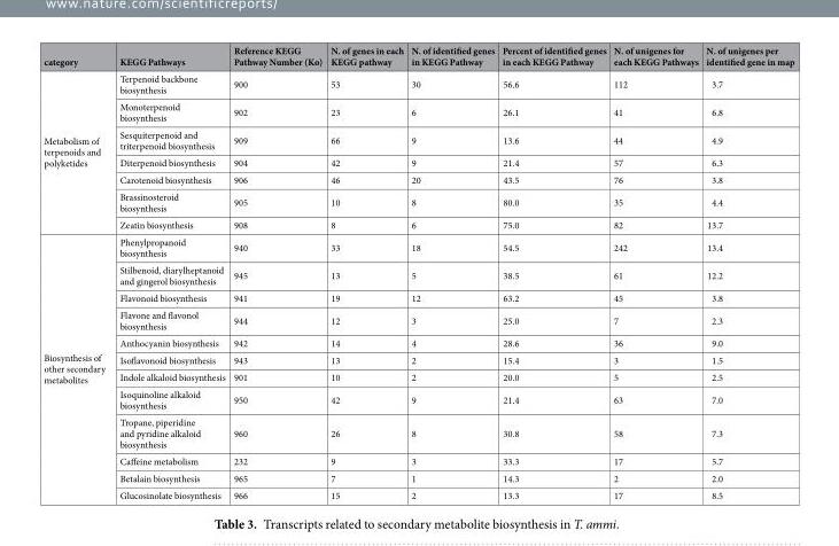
<table><thead><tr><td>category</td><td>KEGG Pathways</td><td>Reference KEGG Pathway Number (Ko)</td><td>N. of genes in each KEGG pathway</td><td>N. of identified genes in KEGG Pathway</td><td>Percent of identified genes in each KEGG Pathway</td><td>N. of unigenes for each KEGG Pathways</td><td>N. of unigenes per identified gene in map</td></tr></thead><tbody><tr><td rowspan="7">Metabolism of terpenoids and polyketides</td><td>Terpenoid backbone biosynthesis</td><td>900</td><td>53</td><td>30</td><td>56.6</td><td>112</td><td>3.7</td></tr><tr><td>Monoterpenoid biosynthesis</td><td>902</td><td>23</td><td>6</td><td>26.1</td><td>41</td><td>6.8</td></tr><tr><td>Sesquiterpenoid and triterpenoid biosynthesis</td><td>909</td><td>66</td><td>9</td><td>13.6</td><td>44</td><td>4.9</td></tr><tr><td>Diterpenoid biosynthesis</td><td>904</td><td>42</td><td>9</td><td>21.4</td><td>57</td><td>6.3</td></tr><tr><td>Carotenoid biosynthesis</td><td>906</td><td>46</td><td>20</td><td>43.5</td><td>76</td><td>3.8</td></tr><tr><td>Brassinosteroid biosynthesis</td><td>905</td><td>10</td><td>8</td><td>80.0</td><td>35</td><td>4.4</td></tr><tr><td>Zeatin biosynthesis</td><td>908</td><td>8</td><td>6</td><td>75.0</td><td>82</td><td>13.7</td></tr><tr><td rowspan="12">Biosynthesis of other secondary metabolites</td><td>Phenylpropanoid biosynthesis</td><td>940</td><td>33</td><td>18</td><td>54.5</td><td>242</td><td>13.4</td></tr><tr><td>Stilbenoid, diarylheptanoid and gingerol biosynthesis</td><td>945</td><td>13</td><td>5</td><td>38.5</td><td>61</td><td>12.2</td></tr><tr><td>Flavonoid biosynthesis</td><td>941</td><td>19</td><td>12</td><td>63.2</td><td>45</td><td>3.8</td></tr><tr><td>Flavone and flavonol biosynthesis</td><td>944</td><td>12</td><td>3</td><td>25.0</td><td>7</td><td>2.3</td></tr><tr><td>Anthocyanin biosynthesis</td><td>942</td><td>14</td><td>4</td><td>28.6</td><td>36</td><td>9.0</td></tr><tr><td>Isoflavonoid biosynthesis</td><td>943</td><td>13</td><td>2</td><td>15.4</td><td>3</td><td>1.5</td></tr><tr><td>Indole alkaloid biosynthesis</td><td>901</td><td>10</td><td>2</td><td>20.0</td><td>5</td><td>2.5</td></tr><tr><td>Isoquinoline alkaloid biosynthesis</td><td>950</td><td>42</td><td>9</td><td>21.4</td><td>63</td><td>7.0</td></tr><tr><td>Tropane, piperidine and pyridine alkaloid biosynthesis</td><td>960</td><td>26</td><td>8</td><td>30.8</td><td>58</td><td>7.3</td></tr><tr><td>Caffeine metabolism</td><td>232</td><td>9</td><td>3</td><td>33.3</td><td>17</td><td>5.7</td></tr><tr><td>Betalain biosynthesis</td><td>965</td><td>7</td><td>1</td><td>14.3</td><td>2</td><td>2.0</td></tr><tr><td>Glucosinolate biosynthesis</td><td>966</td><td>15</td><td>2</td><td>13.3</td><td>17</td><td>8.5</td></tr></tbody></table>